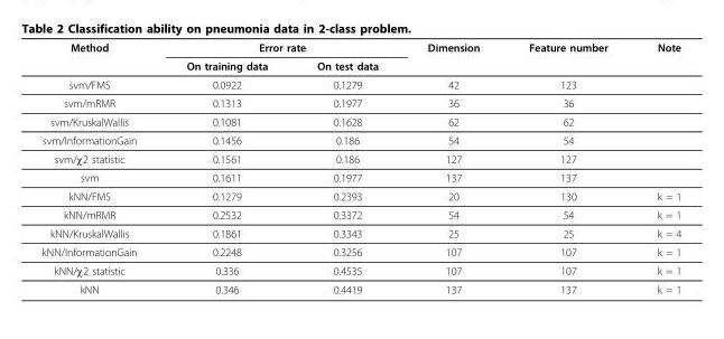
<table><thead><tr><td rowspan="2">Method</td><td colspan="2">Error rate</td><td rowspan="2">Dimension</td><td rowspan="2">Feature number</td><td rowspan="2">Note</td></tr><tr><td>On training data</td><td>On test data</td></tr></thead><tbody><tr><td>svm/FMS</td><td>0.0922</td><td>0.1279</td><td>42</td><td>123</td><td></td></tr><tr><td>svm/mRMR</td><td>0.1313</td><td>0.1977</td><td>36</td><td>36</td><td></td></tr><tr><td>svm/KruskalWallis</td><td>0.1081</td><td>0.1628</td><td>62</td><td>62</td><td></td></tr><tr><td>svm/InformationGain</td><td>0.1456</td><td>0.186</td><td>54</td><td>54</td><td></td></tr><tr><td>svm/χ2 statistic</td><td>0.1561</td><td>0.186</td><td>127</td><td>127</td><td></td></tr><tr><td>svm</td><td>0.1611</td><td>0.1977</td><td>137</td><td>137</td><td></td></tr><tr><td>kNN/FMS</td><td>0.1279</td><td>0.2393</td><td>20</td><td>130</td><td>k = 1</td></tr><tr><td>kNN/mRMR</td><td>0.2532</td><td>0.3372</td><td>54</td><td>54</td><td>k = 1</td></tr><tr><td>kNN/KruskalWallis</td><td>0.1861</td><td>0.3343</td><td>25</td><td>25</td><td>k = 4</td></tr><tr><td>kNN/InformationGain</td><td>0.2248</td><td>0.3256</td><td>107</td><td>107</td><td>k = 1</td></tr><tr><td>kNN/χ2 statistic</td><td>0.336</td><td>0.4535</td><td>107</td><td>107</td><td>k = 1</td></tr><tr><td>kNN</td><td>0.346</td><td>0.4419</td><td>137</td><td>137</td><td>k = 1</td></tr></tbody></table>